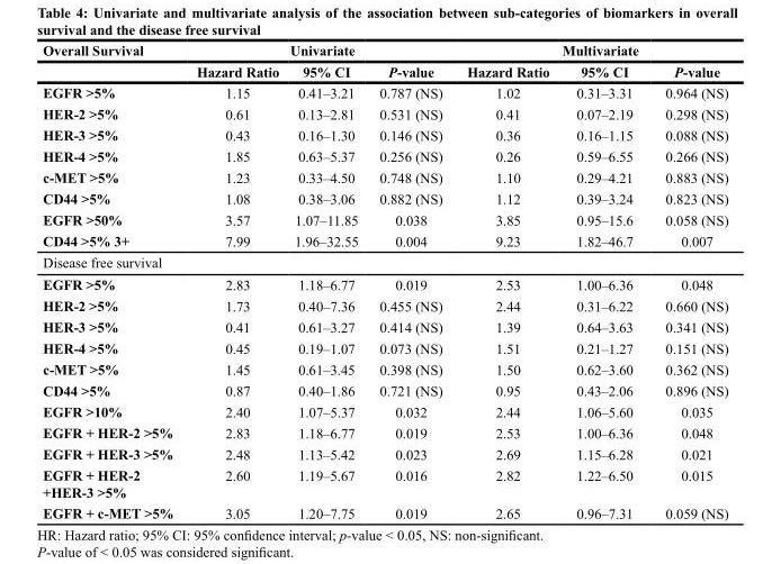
<table><thead><tr><td rowspan="2">Overall Survival</td><td colspan="3">Univariate</td><td colspan="3">Multivariate</td></tr><tr><td>Hazard Ratio</td><td>95% CI</td><td>P-value</td><td>Hazard Ratio</td><td>95% CI</td><td>P-value</td></tr></thead><tbody><tr><td>EGFR &gt;5%</td><td>1.15</td><td>0.41–3.21</td><td>0.787 (NS)</td><td>1.02</td><td>0.31–3.31</td><td>0.964 (NS)</td></tr><tr><td>HER-2 &gt;5%</td><td>0.61</td><td>0.13–2.81</td><td>0.531 (NS)</td><td>0.41</td><td>0.07–2.19</td><td>0.298 (NS)</td></tr><tr><td>HER-3 &gt;5%</td><td>0.43</td><td>0.16–1.30</td><td>0.146 (NS)</td><td>0.36</td><td>0.16–1.15</td><td>0.088 (NS)</td></tr><tr><td>HER-4 &gt;5%</td><td>1.85</td><td>0.63–5.37</td><td>0.256 (NS)</td><td>0.26</td><td>0.59–6.55</td><td>0.266 (NS)</td></tr><tr><td>c-MET &gt;5%</td><td>1.23</td><td>0.33–4.50</td><td>0.748 (NS)</td><td>1.10</td><td>0.29–4.21</td><td>0.883 (NS)</td></tr><tr><td>CD44 &gt;5%</td><td>1.08</td><td>0.38–3.06</td><td>0.882 (NS)</td><td>1.12</td><td>0.39–3.24</td><td>0.823 (NS)</td></tr><tr><td>EGFR &gt;50%</td><td>3.57</td><td>1.07–11.85</td><td>0.038</td><td>3.85</td><td>0.95–15.6</td><td>0.058 (NS)</td></tr><tr><td>CD44 &gt;5% 3+</td><td>7.99</td><td>1.96–32.55</td><td>0.004</td><td>9.23</td><td>1.82–46.7</td><td>0.007</td></tr><tr><td colspan="7">Disease free survival</td></tr><tr><td>EGFR &gt;5%</td><td>2.83</td><td>1.18–6.77</td><td>0.019</td><td>2.53</td><td>1.00–6.36</td><td>0.048</td></tr><tr><td>HER-2 &gt;5%</td><td>1.73</td><td>0.40–7.36</td><td>0.455 (NS)</td><td>2.44</td><td>0.31–6.22</td><td>0.660 (NS)</td></tr><tr><td>HER-3 &gt;5%</td><td>0.41</td><td>0.61–3.27</td><td>0.414 (NS)</td><td>1.39</td><td>0.64–3.63</td><td>0.341 (NS)</td></tr><tr><td>HER-4 &gt;5%</td><td>0.45</td><td>0.19–1.07</td><td>0.073 (NS)</td><td>1.51</td><td>0.21–1.27</td><td>0.151 (NS)</td></tr><tr><td>c-MET &gt;5%</td><td>1.45</td><td>0.61–3.45</td><td>0.398 (NS)</td><td>1.50</td><td>0.62–3.60</td><td>0.362 (NS)</td></tr><tr><td>CD44 &gt;5%</td><td>0.87</td><td>0.40–1.86</td><td>0.721 (NS)</td><td>0.95</td><td>0.43–2.06</td><td>0.896 (NS)</td></tr><tr><td>EGFR &gt;10%</td><td>2.40</td><td>1.07–5.37</td><td>0.032</td><td>2.44</td><td>1.06–5.60</td><td>0.035</td></tr><tr><td>EGFR + HER-2 &gt;5%</td><td>2.83</td><td>1.18–6.77</td><td>0.019</td><td>2.53</td><td>1.00–6.36</td><td>0.048</td></tr><tr><td>EGFR + HER-3 &gt;5%</td><td>2.48</td><td>1.13–5.42</td><td>0.023</td><td>2.69</td><td>1.15–6.28</td><td>0.021</td></tr><tr><td>EGFR + HER-2 +HER-3 &gt;5%</td><td>2.60</td><td>1.19–5.67</td><td>0.016</td><td>2.82</td><td>1.22–6.50</td><td>0.015</td></tr><tr><td>EGFR + c-MET &gt;5%</td><td>3.05</td><td>1.20–7.75</td><td>0.019</td><td>2.65</td><td>0.96–7.31</td><td>0.059 (NS)</td></tr></tbody></table>